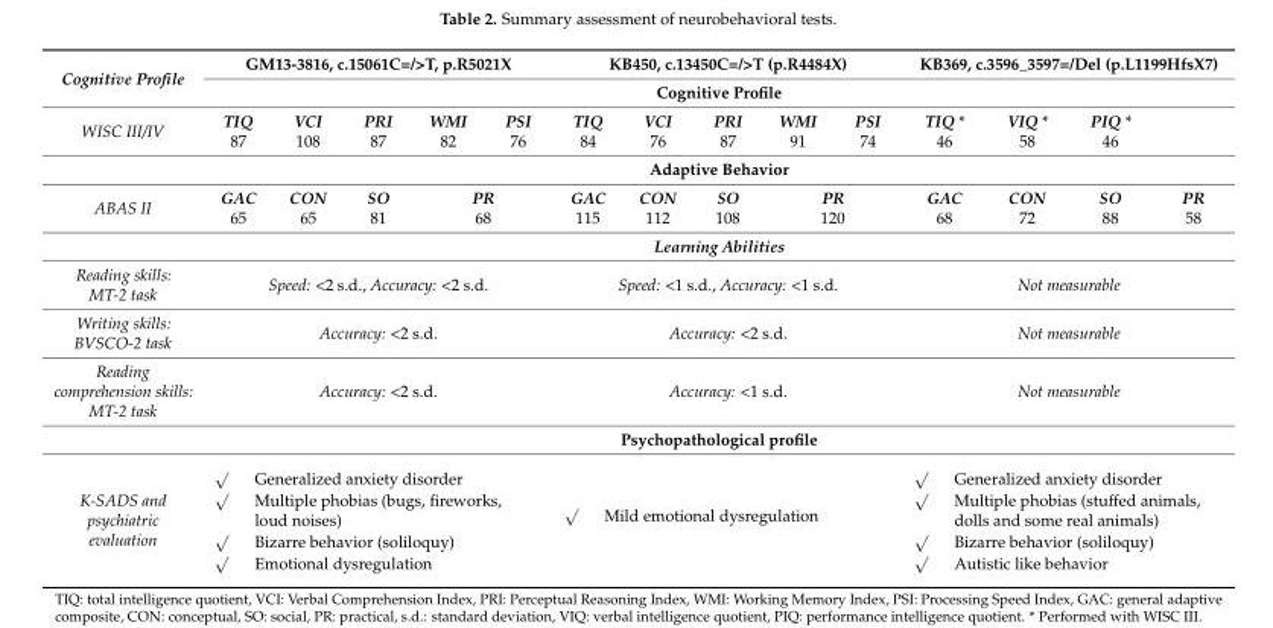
<table><thead><tr><td rowspan="3">Cognitive Profile WISC III/IV</td><td colspan="5">GM13-3816, c.15061C=/&gt;T, p.R5021X</td><td colspan="5">KB450, c.13450C=/&gt;T (p.R4484X)</td><td colspan="4">KB369, c.3596_3597=/Del (p.L1199HfsX7)</td></tr><tr><td colspan="14">Cognitive Profile</td></tr><tr><td>TIQ 87</td><td>VCI 108</td><td>PRI 87</td><td>WMI 82</td><td>PSI 76</td><td>TIQ 84</td><td>VCI 76</td><td>PRI 87</td><td>WMI 91</td><td>PSI 74</td><td>TIQ * 46</td><td>VIQ * 58</td><td>PIQ * 46</td><td></td></tr></thead><tbody><tr><td></td><td colspan="14">Adaptive Behavior</td></tr><tr><td rowspan="2">ABAS II</td><td>GAC 65</td><td>CON 65</td><td>SO 81</td><td colspan="2">PR 68</td><td>GAC 115</td><td>CON 112</td><td>SO 108</td><td colspan="2">PR 120</td><td>GAC 68</td><td>CON 72</td><td>SO 88</td><td>PR 58</td></tr><tr><td colspan="14">Learning Abilities</td></tr><tr><td>Reading skills: MT-2 task</td><td colspan="5">Speed: &lt;2 s.d., Accuracy: &lt;2 s.d.</td><td colspan="5">Speed: &lt;1 s.d., Accuracy: &lt;1 s.d.</td><td colspan="4">Not measurable</td></tr><tr><td>Writing skills: BVSCO-2 task</td><td colspan="5">Accuracy: &lt;2 s.d.</td><td colspan="5">Accuracy: &lt;2 s.d.</td><td colspan="4">Not measurable</td></tr><tr><td rowspan="2">Reading comprehension skills: MT-2 task</td><td colspan="5">Accuracy: &lt;2 s.d.</td><td colspan="5">Accuracy: &lt;1 s.d.</td><td colspan="4">Not measurable</td></tr><tr><td colspan="14">Psychopathological profile</td></tr><tr><td>K-SADS and psychiatric evaluation</td><td colspan="5">√ Generalized anxiety disorder √ Multiple phobias (bugs, fireworks, loud noises) √ Bizarre behavior (soliloquy) √ Emotional dysregulation</td><td colspan="5">√ Mild emotional dysregulation</td><td colspan="4">√ Generalized anxiety disorder √ Multiple phobias (stuffed animals, dolls and some real animals) √ Bizarre behavior (soliloquy) √ Autistic like behavior</td></tr></tbody></table>